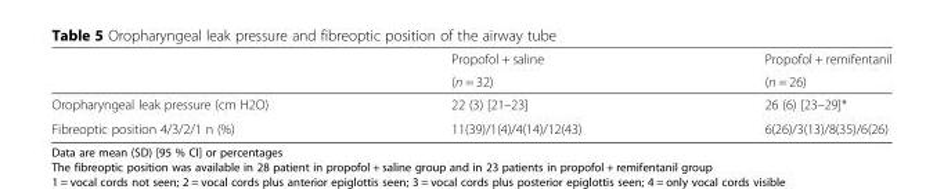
<table><thead><tr><td rowspan="2"></td><td rowspan="2">Propofol + saline (n = 32)</td><td rowspan="2">Propofol + remifentanil (n = 26)</td></tr><tr></tr></thead><tbody><tr><td>Oropharyngeal leak pressure (cm H2O)</td><td>22 (3) [21–23]</td><td>26 (6) [23–29]*</td></tr><tr><td>Fibreoptic position 4/3/2/1 n (%)</td><td>11(39)/1(4)/4(14)/12(43)</td><td>6(26)/3(13)/8(35)/6(26)</td></tr></tbody></table>